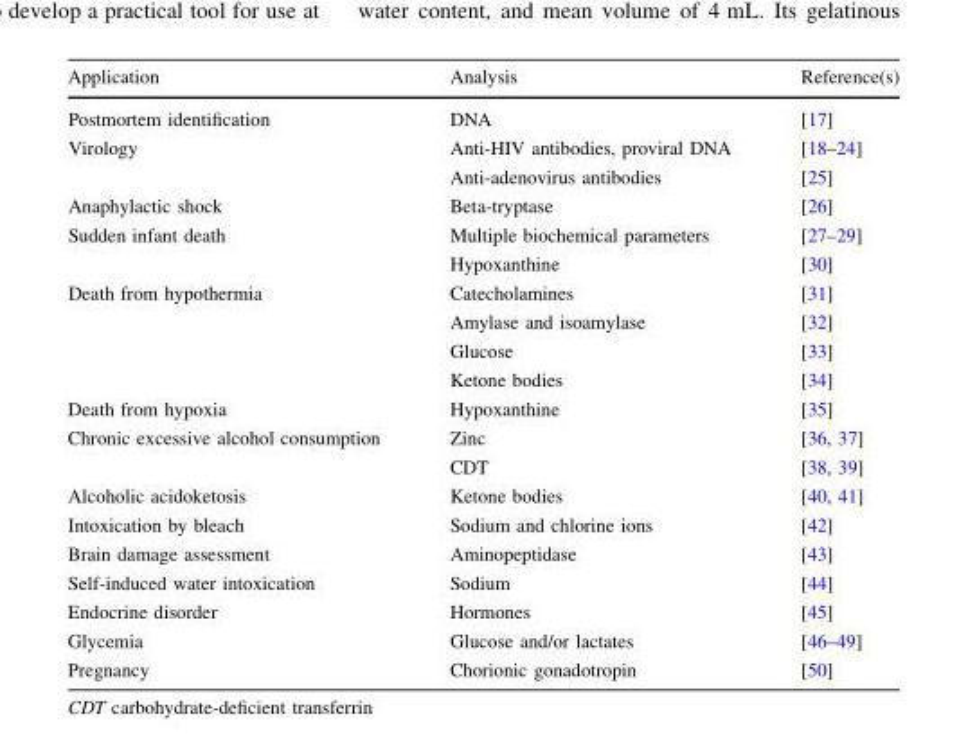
<table><thead><tr><td>Application</td><td>Analysis</td><td>Reference(s)</td></tr></thead><tbody><tr><td>Postmortem identification</td><td>DNA</td><td>[17]</td></tr><tr><td rowspan="2">Virology</td><td>Anti-HIV antibodies, proviral DNA</td><td>[18–24]</td></tr><tr><td>Anti-adenovirus antibodies</td><td>[25]</td></tr><tr><td>Anaphylactic shock</td><td>Beta-tryptase</td><td>[26]</td></tr><tr><td>Sudden infant death</td><td>Multiple biochemical parameters Hypoxanthine</td><td>[27–29] [30]</td></tr><tr><td>Death from hypothermia</td><td>Catecholamines Amylase and isoamylase Glucose Ketone bodies</td><td>[31] [32] [33] [34]</td></tr><tr><td>Death from hypoxia</td><td>Hypoxanthine</td><td>[35]</td></tr><tr><td rowspan="2">Chronic excessive alcohol consumption</td><td>Zinc</td><td>[36, 37]</td></tr><tr><td>CDT</td><td>[38, 39]</td></tr><tr><td>Alcoholic acidoketosis</td><td>Ketone bodies</td><td>[40, 41]</td></tr><tr><td>Intoxication by bleach</td><td>Sodium and chlorine ions</td><td>[42]</td></tr><tr><td>Brain damage assessment</td><td>Aminopeptidase</td><td>[43]</td></tr><tr><td>Self-induced water intoxication</td><td>Sodium</td><td>[44]</td></tr><tr><td>Endocrine disorder</td><td>Hormones</td><td>[45]</td></tr><tr><td>Glycemia</td><td>Glucose and/or lactates</td><td>[46–49]</td></tr><tr><td>Pregnancy</td><td>Chorionic gonadotropin</td><td>[50]</td></tr></tbody></table>